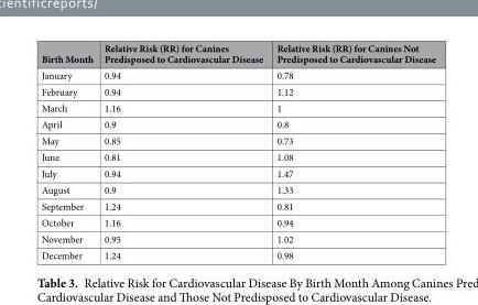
<table><thead><tr><td>Birth Month</td><td>Relative Risk (RR) for Canines Predisposed to Cardiovascular Disease</td><td>Relative Risk (RR) for Canines Not Predisposed to Cardiovascular Disease</td></tr></thead><tbody><tr><td>January</td><td>0.94</td><td>0.78</td></tr><tr><td>February</td><td>0.94</td><td>1.12</td></tr><tr><td>March</td><td>1.16</td><td>1</td></tr><tr><td>April</td><td>0.9</td><td>0.8</td></tr><tr><td>May</td><td>0.85</td><td>0.73</td></tr><tr><td>June</td><td>0.81</td><td>1.08</td></tr><tr><td>July</td><td>0.94</td><td>1.47</td></tr><tr><td>August</td><td>0.9</td><td>1.33</td></tr><tr><td>September</td><td>1.24</td><td>0.81</td></tr><tr><td>October</td><td>1.16</td><td>0.94</td></tr><tr><td>November</td><td>0.95</td><td>1.02</td></tr><tr><td>December</td><td>1.24</td><td>0.98</td></tr></tbody></table>